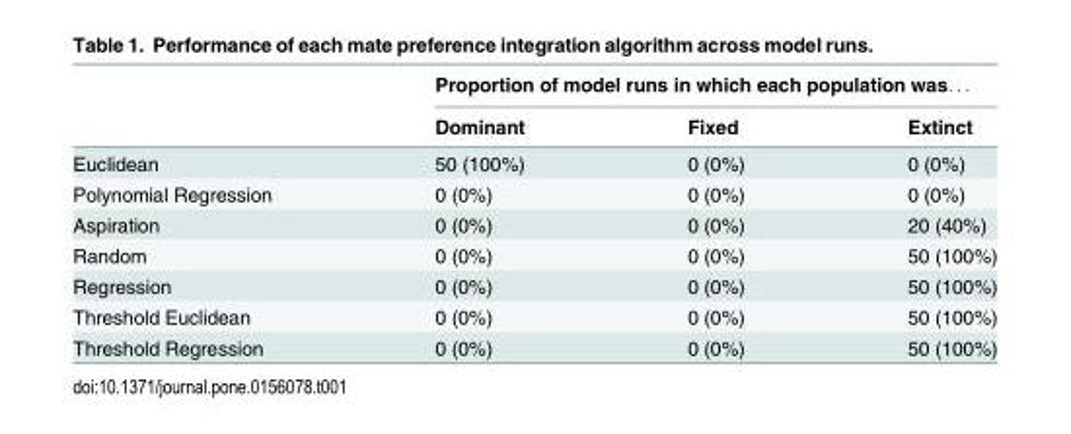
<table><thead><tr><td rowspan="2"></td><td colspan="3">Proportion of model runs in which each population was. . .</td></tr><tr><td>Dominant</td><td>Fixed</td><td>Extinct</td></tr></thead><tbody><tr><td>Euclidean</td><td>50 (100%)</td><td>0 (0%)</td><td>0 (0%)</td></tr><tr><td>Polynomial Regression</td><td>0 (0%)</td><td>0 (0%)</td><td>0 (0%)</td></tr><tr><td>Aspiration</td><td>0 (0%)</td><td>0 (0%)</td><td>20 (40%)</td></tr><tr><td>Random</td><td>0 (0%)</td><td>0 (0%)</td><td>50 (100%)</td></tr><tr><td>Regression</td><td>0 (0%)</td><td>0 (0%)</td><td>50 (100%)</td></tr><tr><td>Threshold Euclidean</td><td>0 (0%)</td><td>0 (0%)</td><td>50 (100%)</td></tr><tr><td>Threshold Regression</td><td>0 (0%)</td><td>0 (0%)</td><td>50 (100%)</td></tr></tbody></table>